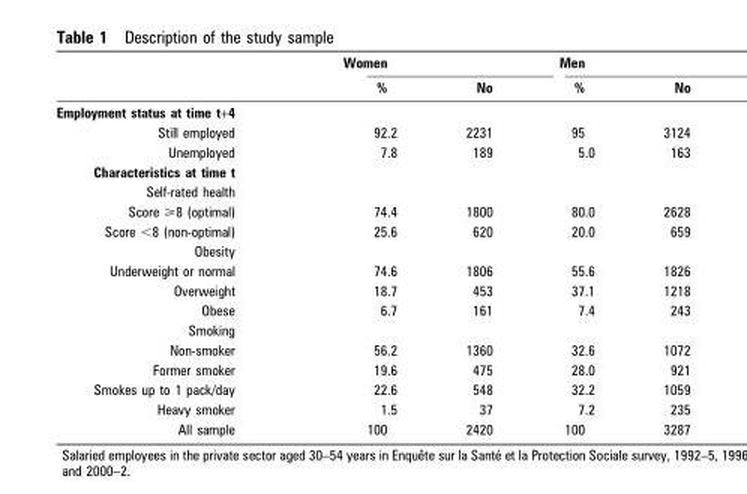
<table><thead><tr><td rowspan="2"></td><td colspan="2">Women</td><td colspan="2">Men</td></tr><tr><td>%</td><td>No</td><td>%</td><td>No</td></tr></thead><tbody><tr><td colspan="5">Employment status at time t+4</td></tr><tr><td>Still employed</td><td>92.2</td><td>2231</td><td>95</td><td>3124</td></tr><tr><td>Unemployed</td><td>7.8</td><td>189</td><td>5.0</td><td>163</td></tr><tr><td colspan="5">Characteristics at time t</td></tr><tr><td colspan="5">Self-rated health</td></tr><tr><td>Score &gt;8 (optimal)</td><td>74.4</td><td>1800</td><td>80.0</td><td>2628</td></tr><tr><td>Score &lt;8 (non-optimal)</td><td>25.6</td><td>620</td><td>20.0</td><td>659</td></tr><tr><td colspan="5">Obesity</td></tr><tr><td>Underweight or normal</td><td>74.6</td><td>1806</td><td>55.6</td><td>1826</td></tr><tr><td>Overweight</td><td>18.7</td><td>453</td><td>37.1</td><td>1218</td></tr><tr><td>Obese</td><td>6.7</td><td>161</td><td>7.4</td><td>243</td></tr><tr><td colspan="5">Smoking</td></tr><tr><td>Non-smoker</td><td>56.2</td><td>1360</td><td>32.6</td><td>1072</td></tr><tr><td>Former smoker</td><td>19.6</td><td>475</td><td>28.0</td><td>921</td></tr><tr><td>Smokes up to 1 pack/day</td><td>22.6</td><td>548</td><td>32.2</td><td>1059</td></tr><tr><td>Heavy smoker</td><td>1.5</td><td>37</td><td>7.2</td><td>235</td></tr><tr><td>All sample</td><td>100</td><td>2420</td><td>100</td><td>3287</td></tr></tbody></table>